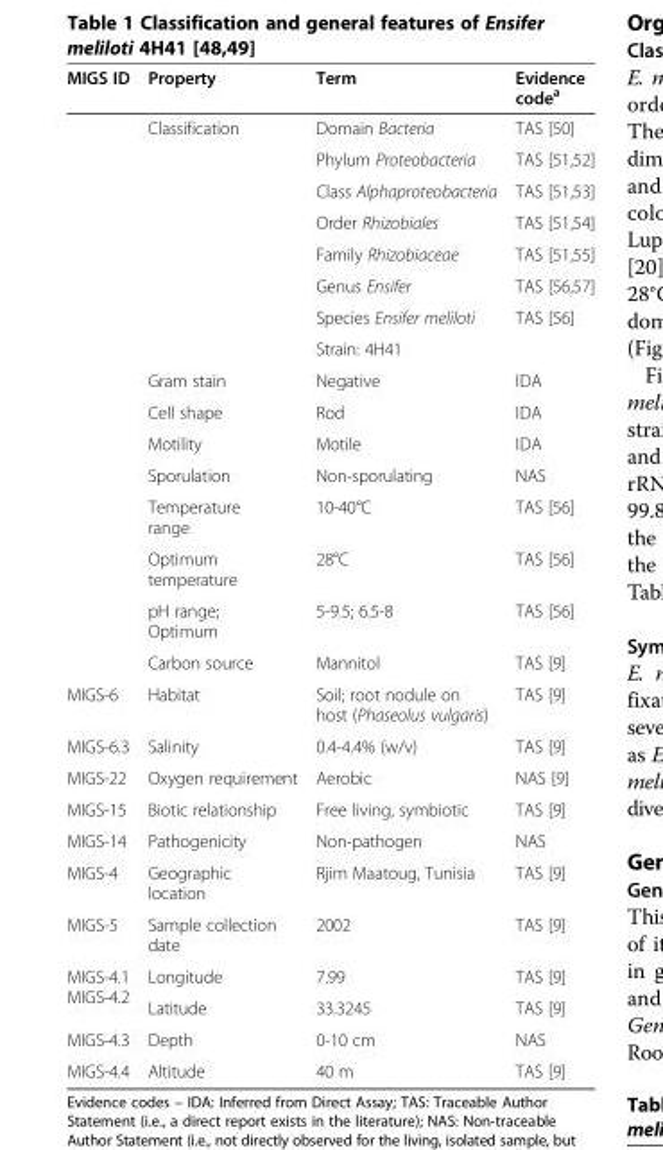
<table><thead><tr><td>MIGS ID</td><td>Property</td><td>Term</td><td>Evidence code<sup>a</sup></td></tr></thead><tbody><tr><td rowspan="8"></td><td rowspan="8">Classification</td><td>Domain Bacteria</td><td>TAS [50]</td></tr><tr><td>Phylum Proteobacteria</td><td>TAS [51,52]</td></tr><tr><td>Class Alphaproteobacteria</td><td>TAS [51,53]</td></tr><tr><td>Order Rhizobiales</td><td>TAS [51,54]</td></tr><tr><td>Family Rhizobiaceae</td><td>TAS [51,55]</td></tr><tr><td>Genus Ensifer</td><td>TAS [56,57]</td></tr><tr><td>Species Ensifer meliloti</td><td>TAS [56]</td></tr><tr><td>Strain: 4H41</td><td></td></tr><tr><td></td><td>Gram stain</td><td>Negative</td><td>IDA</td></tr><tr><td></td><td>Cell shape</td><td>Rod</td><td>IDA</td></tr><tr><td></td><td>Motility</td><td>Motile</td><td>IDA</td></tr><tr><td></td><td>Sporulation</td><td>Non-sporulating</td><td>NAS</td></tr><tr><td></td><td>Temperature range</td><td>10-40°C</td><td>TAS [56]</td></tr><tr><td></td><td>Optimum temperature</td><td>28°C</td><td>TAS [56]</td></tr><tr><td></td><td>pH range; Optimum</td><td>5-9.5; 6.5-8</td><td>TAS [56]</td></tr><tr><td></td><td>Carbon source</td><td>Mannitol</td><td>TAS [9]</td></tr><tr><td>MIGS-6</td><td>Habitat</td><td>Soil; root nodule on host (Phaseolus vulgaris)</td><td>TAS [9]</td></tr><tr><td>MIGS-6.3</td><td>Salinity</td><td>0.4-4.4% (w/v)</td><td>TAS [9]</td></tr><tr><td>MIGS-22</td><td>Oxygen requirement</td><td>Aerobic</td><td>NAS [9]</td></tr><tr><td>MIGS-15</td><td>Biotic relationship</td><td>Free living, symbiotic</td><td>TAS [9]</td></tr><tr><td>MIGS-14</td><td>Pathogenicity</td><td>Non-pathogen</td><td>NAS</td></tr><tr><td>MIGS-4</td><td>Geographic location</td><td>Rjim Maatoug, Tunisia</td><td>TAS [9]</td></tr><tr><td>MIGS-5</td><td>Sample collection date</td><td>2002</td><td>TAS [9]</td></tr><tr><td rowspan="2">MIGS-4.1 MIGS-4.2</td><td>Longitude</td><td>7.99</td><td>TAS [9]</td></tr><tr><td>Latitude</td><td>33.3245</td><td>TAS [9]</td></tr><tr><td>MIGS-4.3</td><td>Depth</td><td>0-10 cm</td><td>NAS</td></tr><tr><td>MIGS-4.4</td><td>Altitude</td><td>40 m</td><td>TAS [9]</td></tr></tbody></table>